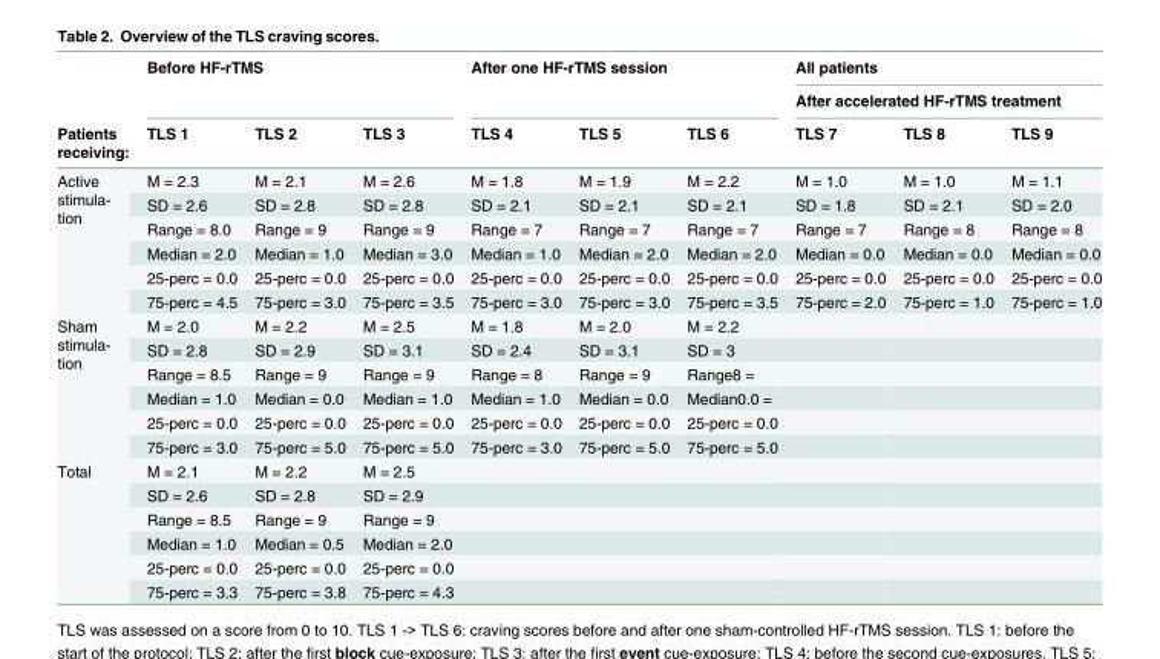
<table><thead><tr><td rowspan="3">Patients receiving:</td><td rowspan="2" colspan="3">Before HF-rTMS</td><td rowspan="2" colspan="3">After one HF-rTMS session</td><td rowspan="2" colspan="3">All patients After accelerated HF-rTMS treatment</td></tr><tr></tr><tr><td>TLS 1</td><td>TLS 2</td><td>TLS 3</td><td>TLS 4</td><td>TLS 5</td><td>TLS 6</td><td>TLS 7</td><td>TLS 8</td><td>TLS 9</td></tr></thead><tbody><tr><td rowspan="6">Active stimula- tion</td><td>M = 2.3</td><td>M = 2.1</td><td>M = 2.6</td><td>M = 1.8</td><td>M = 1.9</td><td>M = 2.2</td><td>M = 1.0</td><td>M = 1.0</td><td>M = 1.1</td></tr><tr><td>SD = 2.6</td><td>SD = 2.8</td><td>SD = 2.8</td><td>SD = 2.1</td><td>SD = 2.1</td><td>SD = 2.1</td><td>SD = 1.8</td><td>SD = 2.1</td><td>SD = 2.0</td></tr><tr><td>Range = 8.0</td><td>Range = 9</td><td>Range = 9</td><td>Range = 7</td><td>Range = 7</td><td>Range = 7</td><td>Range = 7</td><td>Range = 8</td><td>Range = 8</td></tr><tr><td>Median = 2.0</td><td>Median = 1.0</td><td>Median = 3.0</td><td>Median = 1.0</td><td>Median = 2.0</td><td>Median = 2.0</td><td>Median = 0.0</td><td>Median = 0.0</td><td>Median = 0.0</td></tr><tr><td>25-perc = 0.0</td><td>25-perc = 0.0</td><td>25-perc = 0.0</td><td>25-perc = 0.0</td><td>25-perc = 0.0</td><td>25-perc = 0.0</td><td>25-perc = 0.0</td><td>25-perc = 0.0</td><td>25-perc = 0.0</td></tr><tr><td>75-perc = 4.5</td><td>75-perc = 3.0</td><td>75-perc = 3.5</td><td>75-perc = 3.0</td><td>75-perc = 3.0</td><td>75-perc = 3.5</td><td>75-perc = 2.0</td><td>75-perc = 1.0</td><td>75-perc = 1.0</td></tr><tr><td rowspan="6">Sham stimula- tion</td><td>M = 2.0</td><td>M = 2.2</td><td>M = 2.5</td><td>M = 1.8</td><td>M = 2.0</td><td>M = 2.2</td><td></td><td></td><td></td></tr><tr><td>SD = 2.8</td><td>SD = 2.9</td><td>SD = 3.1</td><td>SD = 2.4</td><td>SD = 3.1</td><td>SD = 3</td><td></td><td></td><td></td></tr><tr><td>Range = 8.5</td><td>Range = 9</td><td>Range = 9</td><td>Range = 8</td><td>Range = 9</td><td>Range8 =</td><td></td><td></td><td></td></tr><tr><td>Median = 1.0</td><td>Median = 0.0</td><td>Median = 1.0</td><td>Median = 1.0</td><td>Median = 0.0</td><td>Median0.0 =</td><td></td><td></td><td></td></tr><tr><td>25-perc = 0.0</td><td>25-perc = 0.0</td><td>25-perc = 0.0</td><td>25-perc = 0.0</td><td>25-perc = 0.0</td><td>25-perc = 0.0</td><td></td><td></td><td></td></tr><tr><td>75-perc = 3.0</td><td>75-perc = 5.0</td><td>75-perc = 5.0</td><td>75-perc = 3.0</td><td>75-perc = 5.0</td><td>75-perc = 5.0</td><td></td><td></td><td></td></tr><tr><td rowspan="6">Total</td><td>M = 2.1</td><td>M = 2.2</td><td>M = 2.5</td><td></td><td></td><td></td><td></td><td></td><td></td></tr><tr><td>SD = 2.6</td><td>SD = 2.8</td><td>SD = 2.9</td><td></td><td></td><td></td><td></td><td></td><td></td></tr><tr><td>Range = 8.5</td><td>Range = 9</td><td>Range = 9</td><td></td><td></td><td></td><td></td><td></td><td></td></tr><tr><td>Median = 1.0</td><td>Median = 0.5</td><td>Median = 2.0</td><td></td><td></td><td></td><td></td><td></td><td></td></tr><tr><td>25-perc = 0.0</td><td>25-perc = 0.0</td><td>25-perc = 0.0</td><td></td><td></td><td></td><td></td><td></td><td></td></tr><tr><td>75-perc = 3.3</td><td>75-perc = 3.8</td><td>75-perc = 4.3</td><td></td><td></td><td></td><td></td><td></td><td></td></tr></tbody></table>